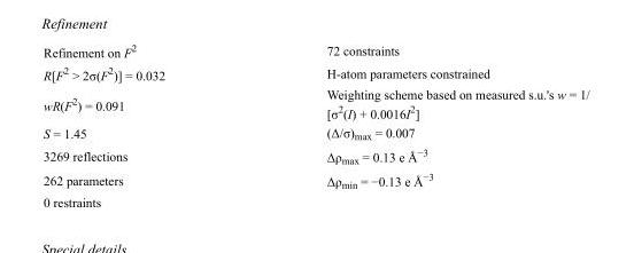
<table><tbody><tr><td>Refinement on F<sup>2</sup></td><td>72 constraints</td></tr><tr><td>R[F<sup>2</sup> &gt; 2σ(F<sup>2</sup>)] = 0.032</td><td>H-atom parameters constrained</td></tr><tr><td>wR(F<sup>2</sup>) = 0.091</td><td>Weighting scheme based on measured s.u.&#x27;s w = 1/ [σ<sup>2</sup>(I) + 0.0016I<sup>2</sup>]</td></tr><tr><td>S = 1.45</td><td>(Δ/σ)<sub>max</sub> = 0.007</td></tr><tr><td>3269 reflections</td><td>Δρ<sub>max</sub> = 0.13 e Å<sup>−3</sup></td></tr><tr><td>262 parameters</td><td>Δρ<sub>min</sub> = −0.13 e Å<sup>−3</sup></td></tr><tr><td>0 restraints</td><td></td></tr></tbody></table>